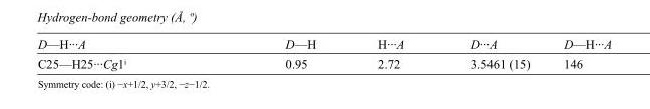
<table><tbody><tr><td>D—H···A</td><td>D—H</td><td>H···A</td><td>D···A</td><td>D—H···A</td></tr><tr><td>C25—H25···Cg1<sup>i</sup></td><td>0.95</td><td>2.72</td><td>3.5461 (15)</td><td>146</td></tr></tbody></table>